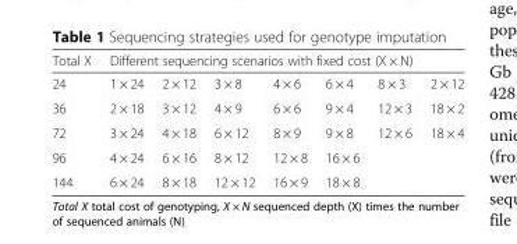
<table><thead><tr><td rowspan="2">Total X 24</td><td colspan="7">Different sequencing scenarios with fixed cost (X × N)</td></tr><tr><td>1 × 24</td><td>2 × 12</td><td>3 × 8</td><td>4 × 6</td><td>6 × 4</td><td>8 × 3</td><td>2 × 12</td></tr></thead><tbody><tr><td>36</td><td>2 × 18</td><td>3 × 12</td><td>4 × 9</td><td>6 × 6</td><td>9 × 4</td><td>12 × 3</td><td>18 × 2</td></tr><tr><td>72</td><td>3 × 24</td><td>4 × 18</td><td>6 × 12</td><td>8 × 9</td><td>9 × 8</td><td>12 × 6</td><td>18 × 4</td></tr><tr><td>96</td><td>4 × 24</td><td>6 × 16</td><td>8 × 12</td><td>12 × 8</td><td>16 × 6</td><td></td><td></td></tr><tr><td>144</td><td>6 × 24</td><td>8 × 18</td><td>12 × 12</td><td>16 × 9</td><td>18 × 8</td><td></td><td></td></tr></tbody></table>